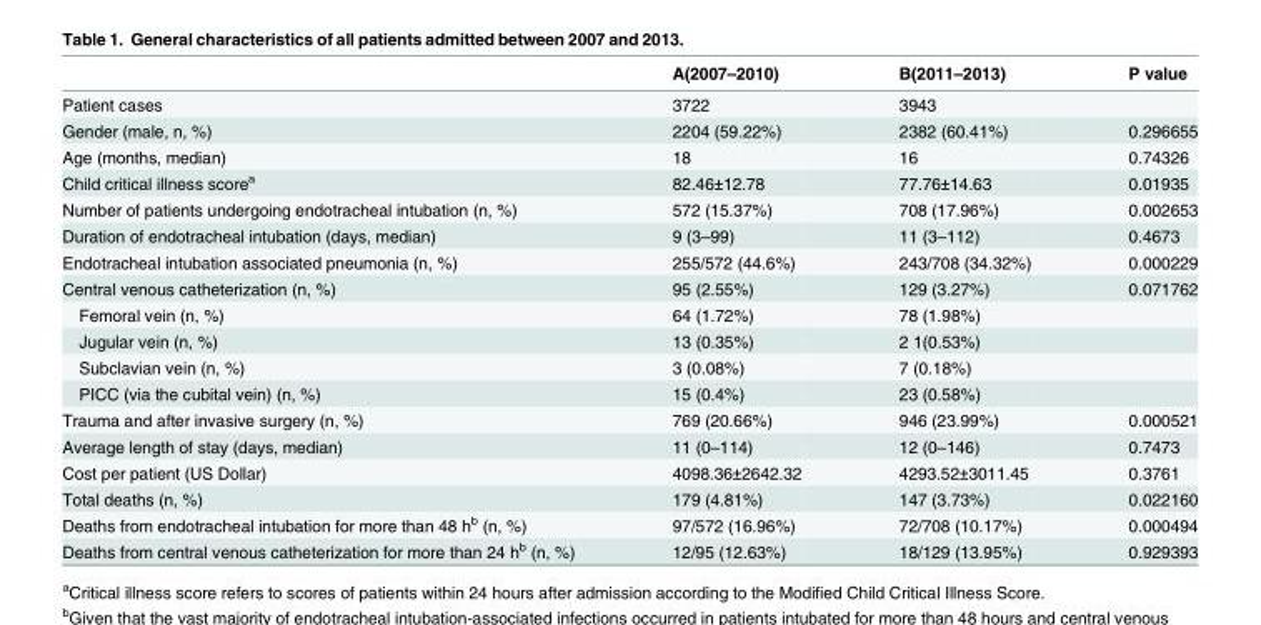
<table><thead><tr><td></td><td>A(2007–2010)</td><td>B(2011–2013)</td><td>P value</td></tr></thead><tbody><tr><td>Patient cases</td><td>3722</td><td>3943</td><td></td></tr><tr><td>Gender (male, n, %)</td><td>2204 (59.22%)</td><td>2382 (60.41%)</td><td>0.296655</td></tr><tr><td>Age (months, median)</td><td>18</td><td>16</td><td>0.74326</td></tr><tr><td>Child critical illness score<sup>a</sup></td><td>82.46±12.78</td><td>77.76±14.63</td><td>0.01935</td></tr><tr><td>Number of patients undergoing endotracheal intubation (n, %)</td><td>572 (15.37%)</td><td>708 (17.96%)</td><td>0.002653</td></tr><tr><td>Duration of endotracheal intubation (days, median)</td><td>9 (3–99)</td><td>11 (3–112)</td><td>0.4673</td></tr><tr><td>Endotracheal intubation associated pneumonia (n, %)</td><td>255/572 (44.6%)</td><td>243/708 (34.32%)</td><td>0.000229</td></tr><tr><td>Central venous catheterization (n, %)</td><td>95 (2.55%)</td><td>129 (3.27%)</td><td>0.071762</td></tr><tr><td>Femoral vein (n, %)</td><td>64 (1.72%)</td><td>78 (1.98%)</td><td></td></tr><tr><td>Jugular vein (n, %)</td><td>13 (0.35%)</td><td>2 1(0.53%)</td><td></td></tr><tr><td>Subclavian vein (n, %)</td><td>3 (0.08%)</td><td>7 (0.18%)</td><td></td></tr><tr><td>PICC (via the cubital vein) (n, %)</td><td>15 (0.4%)</td><td>23 (0.58%)</td><td></td></tr><tr><td>Trauma and after invasive surgery (n, %)</td><td>769 (20.66%)</td><td>946 (23.99%)</td><td>0.000521</td></tr><tr><td>Average length of stay (days, median)</td><td>11 (0–114)</td><td>12 (0–146)</td><td>0.7473</td></tr><tr><td>Cost per patient (US Dollar)</td><td>4098.36±2642.32</td><td>4293.52±3011.45</td><td>0.3761</td></tr><tr><td>Total deaths (n, %)</td><td>179 (4.81%)</td><td>147 (3.73%)</td><td>0.022160</td></tr><tr><td>Deaths from endotracheal intubation for more than 48 h<sup>b</sup> (n, %)</td><td>97/572 (16.96%)</td><td>72/708 (10.17%)</td><td>0.000494</td></tr><tr><td>Deaths from central venous catheterization for more than 24 h<sup>b</sup> (n, %)</td><td>12/95 (12.63%)</td><td>18/129 (13.95%)</td><td>0.929393</td></tr></tbody></table>